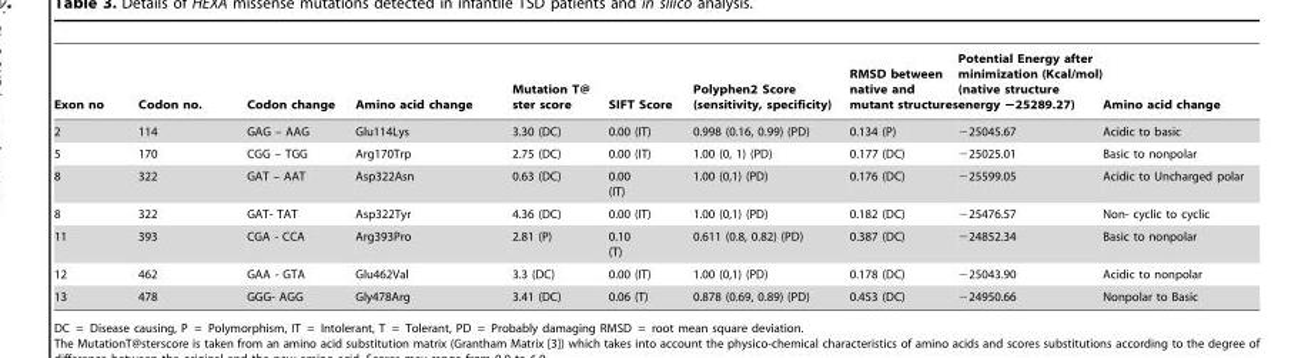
<table><thead><tr><td>Exon no</td><td>Codon no.</td><td>Codon change</td><td>Amino acid change</td><td>Mutation T@ ster score</td><td>SIFT Score</td><td>Polyphen2 Score (sensitivity, specificity)</td><td>RMSD between native and mutant structures</td><td>Potential Energy after minimization (Kcal/mol) (native structure energy −25289.27)</td><td>Amino acid change</td></tr></thead><tbody><tr><td>2</td><td>114</td><td>GAG – AAG</td><td>Glu114Lys</td><td>3.30 (DC)</td><td>0.00 (IT)</td><td>0.998 (0.16, 0.99) (PD)</td><td>0.134 (P)</td><td>−25045.67</td><td>Acidic to basic</td></tr><tr><td>5</td><td>170</td><td>CGG – TGG</td><td>Arg170Trp</td><td>2.75 (DC)</td><td>0.00 (IT)</td><td>1.00 (0, 1) (PD)</td><td>0.177 (DC)</td><td>−25025.01</td><td>Basic to nonpolar</td></tr><tr><td>8</td><td>322</td><td>GAT – AAT</td><td>Asp322Asn</td><td>0.63 (DC)</td><td>0.00 (IT)</td><td>1.00 (0,1) (PD)</td><td>0.176 (DC)</td><td>−25599.05</td><td>Acidic to Uncharged polar</td></tr><tr><td>8</td><td>322</td><td>GAT- TAT</td><td>Asp322Tyr</td><td>4.36 (DC)</td><td>0.00 (IT)</td><td>1.00 (0,1) (PD)</td><td>0.182 (DC)</td><td>−25476.57</td><td>Non- cyclic to cyclic</td></tr><tr><td>11</td><td>393</td><td>CGA - CCA</td><td>Arg393Pro</td><td>2.81 (P)</td><td>0.10 (T)</td><td>0.611 (0.8, 0.82) (PD)</td><td>0.387 (DC)</td><td>−24852.34</td><td>Basic to nonpolar</td></tr><tr><td>12</td><td>462</td><td>GAA - GTA</td><td>Glu462Val</td><td>3.3 (DC)</td><td>0.00 (IT)</td><td>1.00 (0,1) (PD)</td><td>0.178 (DC)</td><td>−25043.90</td><td>Acidic to nonpolar</td></tr><tr><td>13</td><td>478</td><td>GGG- AGG</td><td>Gly478Arg</td><td>3.41 (DC)</td><td>0.06 (T)</td><td>0.878 (0.69, 0.89) (PD)</td><td>0.453 (DC)</td><td>−24950.66</td><td>Nonpolar to Basic</td></tr></tbody></table>